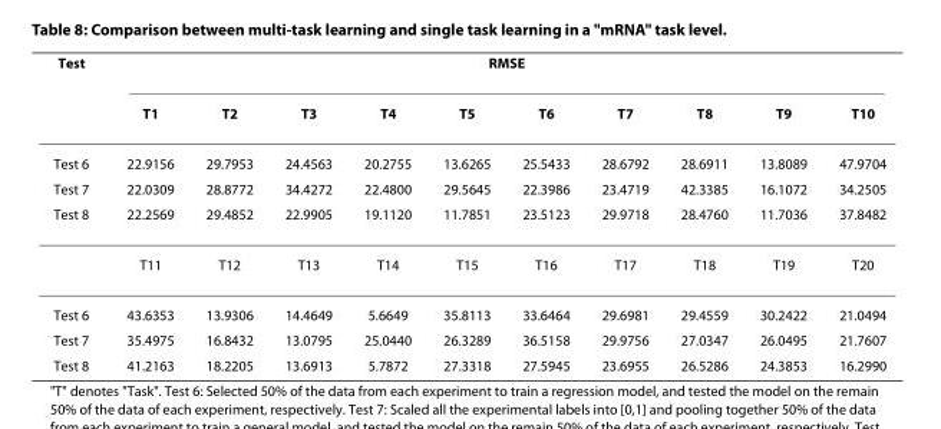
<table><thead><tr><td rowspan="2">Test</td><td colspan="10">RMSE</td></tr><tr><td>T1</td><td>T2</td><td>T3</td><td>T4</td><td>T5</td><td>T6</td><td>T7</td><td>T8</td><td>T9</td><td>T10</td></tr></thead><tbody><tr><td>Test 6</td><td>22.9156</td><td>29.7953</td><td>24.4563</td><td>20.2755</td><td>13.6265</td><td>25.5433</td><td>28.6792</td><td>28.6911</td><td>13.8089</td><td>47.9704</td></tr><tr><td>Test 7</td><td>22.0309</td><td>28.8772</td><td>34.4272</td><td>22.4800</td><td>29.5645</td><td>22.3986</td><td>23.4719</td><td>42.3385</td><td>16.1072</td><td>34.2505</td></tr><tr><td rowspan="2">Test 8</td><td>22.2569</td><td>29.4852</td><td>22.9905</td><td>19.1120</td><td>11.7851</td><td>23.5123</td><td>29.9718</td><td>28.4760</td><td>11.7036</td><td>37.8482</td></tr><tr><td>T11</td><td>T12</td><td>T13</td><td>T14</td><td>T15</td><td>T16</td><td>T17</td><td>T18</td><td>T19</td><td>T20</td></tr><tr><td>Test 6</td><td>43.6353</td><td>13.9306</td><td>14.4649</td><td>5.6649</td><td>35.8113</td><td>33.6464</td><td>29.6981</td><td>29.4559</td><td>30.2422</td><td>21.0494</td></tr><tr><td>Test 7</td><td>35.4975</td><td>16.8432</td><td>13.0795</td><td>25.0440</td><td>26.3289</td><td>36.5158</td><td>29.9756</td><td>27.0347</td><td>26.0495</td><td>21.7607</td></tr><tr><td>Test 8</td><td>41.2163</td><td>18.2205</td><td>13.6913</td><td>5.7872</td><td>27.3318</td><td>27.5945</td><td>23.6955</td><td>26.5286</td><td>24.3853</td><td>16.2990</td></tr></tbody></table>